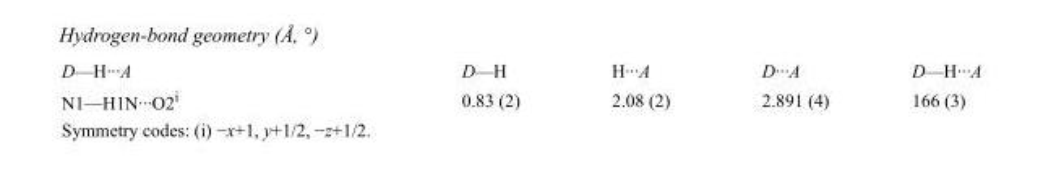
<table><tbody><tr><td>D—H···A</td><td>D—H</td><td>H···A</td><td>D···A</td><td>D—H···A</td></tr><tr><td>N1—H1N···O2<sup>i</sup></td><td>0.83 (2)</td><td>2.08 (2)</td><td>2.891 (4)</td><td>166 (3)</td></tr></tbody></table>